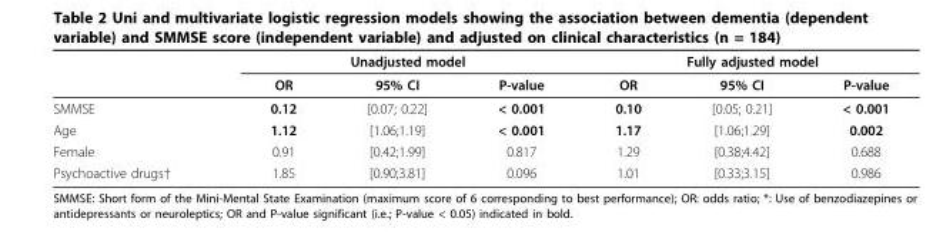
<table><thead><tr><td rowspan="2"></td><td colspan="3">Unadjusted model</td><td colspan="3">Fully adjusted model</td></tr><tr><td>OR</td><td>95% CI</td><td>P-value</td><td>OR</td><td>95% CI</td><td>P-value</td></tr></thead><tbody><tr><td>SMMSE</td><td>0.12</td><td>[0.07; 0.22]</td><td>&lt; 0.001</td><td>0.10</td><td>[0.05; 0.21]</td><td>&lt; 0.001</td></tr><tr><td>Age</td><td>1.12</td><td>[1.06;1.19]</td><td>&lt; 0.001</td><td>1.17</td><td>[1.06;1.29]</td><td>0.002</td></tr><tr><td>Female</td><td>0.91</td><td>[0.42;1.99]</td><td>0.817</td><td>1.29</td><td>[0.38;4.42]</td><td>0.688</td></tr><tr><td>Psychoactive drugs†</td><td>1.85</td><td>[0.90;3.81]</td><td>0.096</td><td>1.01</td><td>[0.33;3.15]</td><td>0.986</td></tr></tbody></table>